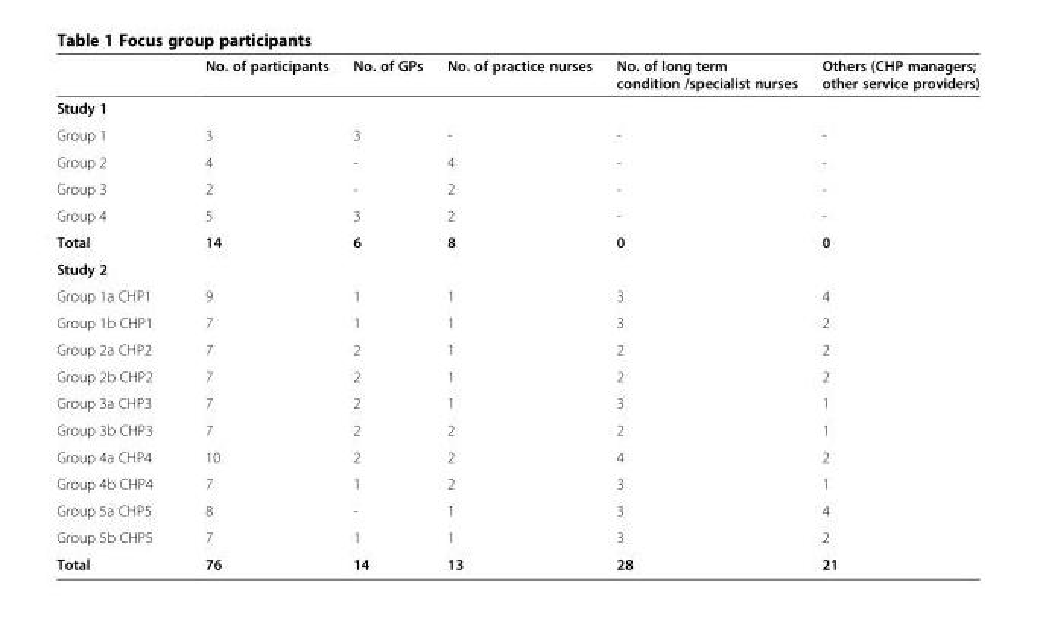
<table><thead><tr><td></td><td>No. of participants</td><td>No. of GPs</td><td>No. of practice nurses</td><td>No. of long term condition /specialist nurses</td><td>Others (CHP managers; other service providers)</td></tr></thead><tbody><tr><td colspan="6">Study 1</td></tr><tr><td>Group 1</td><td>3</td><td>3</td><td>-</td><td>-</td><td>-</td></tr><tr><td>Group 2</td><td>4</td><td>-</td><td>4</td><td>-</td><td>-</td></tr><tr><td>Group 3</td><td>2</td><td>-</td><td>2</td><td>-</td><td>-</td></tr><tr><td>Group 4</td><td>5</td><td>3</td><td>2</td><td>-</td><td>-</td></tr><tr><td>Total</td><td>14</td><td>6</td><td>8</td><td>0</td><td>0</td></tr><tr><td colspan="6">Study 2</td></tr><tr><td>Group 1a CHP1</td><td>9</td><td>1</td><td>1</td><td>3</td><td>4</td></tr><tr><td>Group 1b CHP1</td><td>7</td><td>1</td><td>1</td><td>3</td><td>2</td></tr><tr><td>Group 2a CHP2</td><td>7</td><td>2</td><td>1</td><td>2</td><td>2</td></tr><tr><td>Group 2b CHP2</td><td>7</td><td>2</td><td>1</td><td>2</td><td>2</td></tr><tr><td>Group 3a CHP3</td><td>7</td><td>2</td><td>1</td><td>3</td><td>1</td></tr><tr><td>Group 3b CHP3</td><td>7</td><td>2</td><td>2</td><td>2</td><td>1</td></tr><tr><td>Group 4a CHP4</td><td>10</td><td>2</td><td>2</td><td>4</td><td>2</td></tr><tr><td>Group 4b CHP4</td><td>7</td><td>1</td><td>2</td><td>3</td><td>1</td></tr><tr><td>Group 5a CHP5</td><td>8</td><td>-</td><td>1</td><td>3</td><td>4</td></tr><tr><td>Group 5b CHP5</td><td>7</td><td>1</td><td>1</td><td>3</td><td>2</td></tr><tr><td>Total</td><td>76</td><td>14</td><td>13</td><td>28</td><td>21</td></tr></tbody></table>